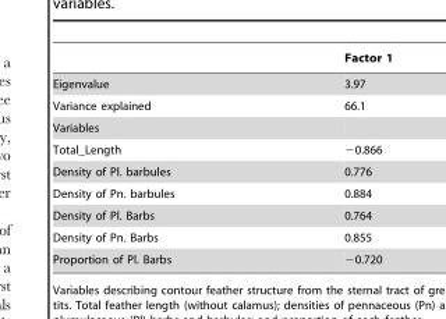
<table><thead><tr><td></td><td>Factor 1</td></tr></thead><tbody><tr><td>Eigenvalue</td><td>3.97</td></tr><tr><td>Variance explained</td><td>66.1</td></tr><tr><td colspan="2">Variables</td></tr><tr><td>Total_Length</td><td>−0.866</td></tr><tr><td>Density of Pl. barbules</td><td>0.776</td></tr><tr><td>Density of Pn. barbules</td><td>0.884</td></tr><tr><td>Density of Pl. Barbs</td><td>0.764</td></tr><tr><td>Density of Pn. Barbs</td><td>0.855</td></tr><tr><td>Proportion of Pl. Barbs</td><td>−0.720</td></tr></tbody></table>